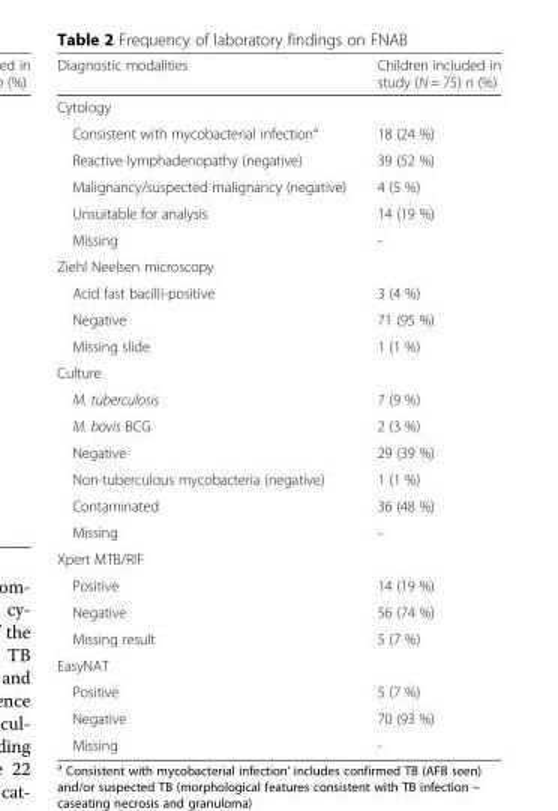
<table><thead><tr><td>Diagnostic modalities</td><td>Children included in study (N = 75) n (%)</td></tr></thead><tbody><tr><td colspan="2">Cytology</td></tr><tr><td>Consistent with mycobacterial infection<sup>a</sup></td><td>18 (24 %)</td></tr><tr><td>Reactive lymphadenopathy (negative)</td><td>39 (52 %)</td></tr><tr><td>Malignancy/suspected malignancy (negative)</td><td>4 (5 %)</td></tr><tr><td>Unsuitable for analysis</td><td>14 (19 %)</td></tr><tr><td>Missing</td><td>-</td></tr><tr><td colspan="2">Ziehl Neelsen microscopy</td></tr><tr><td>Acid fast bacilli-positive</td><td>3 (4 %)</td></tr><tr><td>Negative</td><td>71 (95 %)</td></tr><tr><td>Missing slide</td><td>1 (1 %)</td></tr><tr><td colspan="2">Culture</td></tr><tr><td>M. tuberculosis</td><td>7 (9 %)</td></tr><tr><td>M. bovis BCG</td><td>2 (3 %)</td></tr><tr><td>Negative</td><td>29 (39 %)</td></tr><tr><td>Non-tuberculous mycobacteria (negative)</td><td>1 (1 %)</td></tr><tr><td>Contaminated</td><td>36 (48 %)</td></tr><tr><td>Missing</td><td>-</td></tr><tr><td colspan="2">Xpert MTB/RIF</td></tr><tr><td>Positive</td><td>14 (19 %)</td></tr><tr><td>Negative</td><td>56 (74 %)</td></tr><tr><td>Missing result</td><td>5 (7 %)</td></tr><tr><td colspan="2">EasyNAT</td></tr><tr><td>Positive</td><td>5 (7 %)</td></tr><tr><td>Negative</td><td>70 (93 %)</td></tr><tr><td>Missing</td><td>-</td></tr></tbody></table>